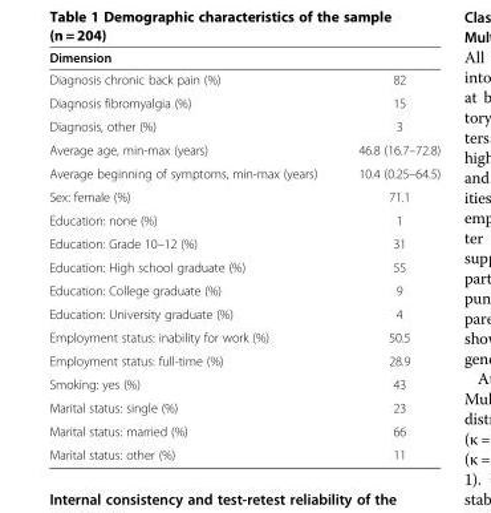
<table><thead><tr><td>Dimension</td><td></td></tr></thead><tbody><tr><td>Diagnosis chronic back pain (%)</td><td>82</td></tr><tr><td>Diagnosis fibromyalgia (%)</td><td>15</td></tr><tr><td>Diagnosis, other (%)</td><td>3</td></tr><tr><td>Average age, min-max (years)</td><td>46.8 (16.7–72.8)</td></tr><tr><td>Average beginning of symptoms, min-max (years)</td><td>10.4 (0.25–64.5)</td></tr><tr><td>Sex: female (%)</td><td>71.1</td></tr><tr><td>Education: none (%)</td><td>1</td></tr><tr><td>Education: Grade 10–12 (%)</td><td>31</td></tr><tr><td>Education: High school graduate (%)</td><td>55</td></tr><tr><td>Education: College graduate (%)</td><td>9</td></tr><tr><td>Education: University graduate (%)</td><td>4</td></tr><tr><td>Employment status: inability for work (%)</td><td>50.5</td></tr><tr><td>Employment status: full-time (%)</td><td>28.9</td></tr><tr><td>Smoking: yes (%)</td><td>43</td></tr><tr><td>Marital status: single (%)</td><td>23</td></tr><tr><td>Marital status: married (%)</td><td>66</td></tr><tr><td>Marital status: other (%)</td><td>11</td></tr></tbody></table>